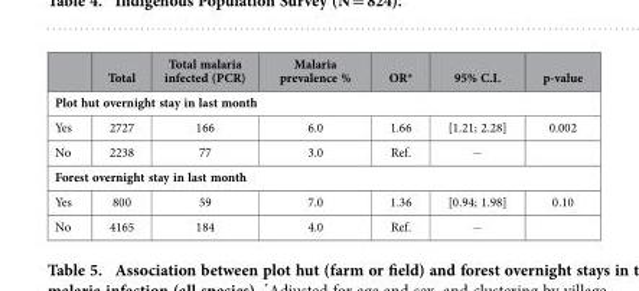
<table><thead><tr><td></td><td>Total</td><td>Total malaria infected (PCR)</td><td>Malaria prevalence %</td><td>OR*</td><td>95% C.I.</td><td>p-value</td></tr></thead><tbody><tr><td colspan="7">Plot hut overnight stay in last month</td></tr><tr><td>Yes</td><td>2727</td><td>166</td><td>6.0</td><td>1.66</td><td>[1.21; 2.28]</td><td>0.002</td></tr><tr><td>No</td><td>2238</td><td>77</td><td>3.0</td><td>Ref.</td><td>−</td><td></td></tr><tr><td colspan="7">Forest overnight stay in last month</td></tr><tr><td>Yes</td><td>800</td><td>59</td><td>7.0</td><td>1.36</td><td>[0.94; 1.98]</td><td>0.10</td></tr><tr><td>No</td><td>4165</td><td>184</td><td>4.0</td><td>Ref.</td><td>−</td><td></td></tr></tbody></table>